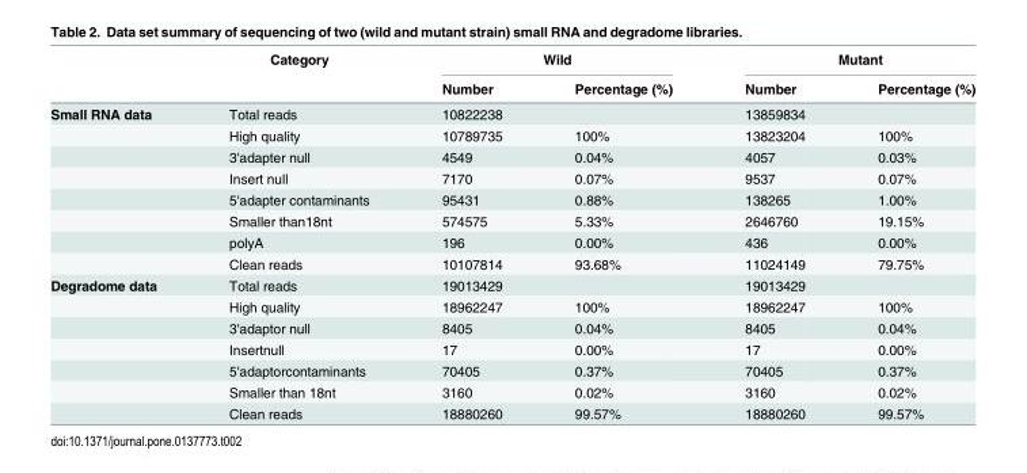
<table><thead><tr><td rowspan="2"></td><td rowspan="2">Category</td><td colspan="2">Wild</td><td colspan="2">Mutant</td></tr><tr><td>Number</td><td>Percentage (%)</td><td>Number</td><td>Percentage (%)</td></tr></thead><tbody><tr><td rowspan="8">Small RNA data</td><td>Total reads</td><td>10822238</td><td></td><td>13859834</td><td></td></tr><tr><td>High quality</td><td>10789735</td><td>100%</td><td>13823204</td><td>100%</td></tr><tr><td>3&#x27;adapter null</td><td>4549</td><td>0.04%</td><td>4057</td><td>0.03%</td></tr><tr><td>Insert null</td><td>7170</td><td>0.07%</td><td>9537</td><td>0.07%</td></tr><tr><td>5&#x27;adapter contaminants</td><td>95431</td><td>0.88%</td><td>138265</td><td>1.00%</td></tr><tr><td>Smaller than18nt</td><td>574575</td><td>5.33%</td><td>2646760</td><td>19.15%</td></tr><tr><td>polyA</td><td>196</td><td>0.00%</td><td>436</td><td>0.00%</td></tr><tr><td>Clean reads</td><td>10107814</td><td>93.68%</td><td>11024149</td><td>79.75%</td></tr><tr><td rowspan="7">Degradome data</td><td>Total reads</td><td>19013429</td><td></td><td>19013429</td><td></td></tr><tr><td>High quality</td><td>18962247</td><td>100%</td><td>18962247</td><td>100%</td></tr><tr><td>3&#x27;adaptor null</td><td>8405</td><td>0.04%</td><td>8405</td><td>0.04%</td></tr><tr><td>Insertnull</td><td>17</td><td>0.00%</td><td>17</td><td>0.00%</td></tr><tr><td>5&#x27;adaptorcontaminants</td><td>70405</td><td>0.37%</td><td>70405</td><td>0.37%</td></tr><tr><td>Smaller than 18nt</td><td>3160</td><td>0.02%</td><td>3160</td><td>0.02%</td></tr><tr><td>Clean reads</td><td>18880260</td><td>99.57%</td><td>18880260</td><td>99.57%</td></tr></tbody></table>